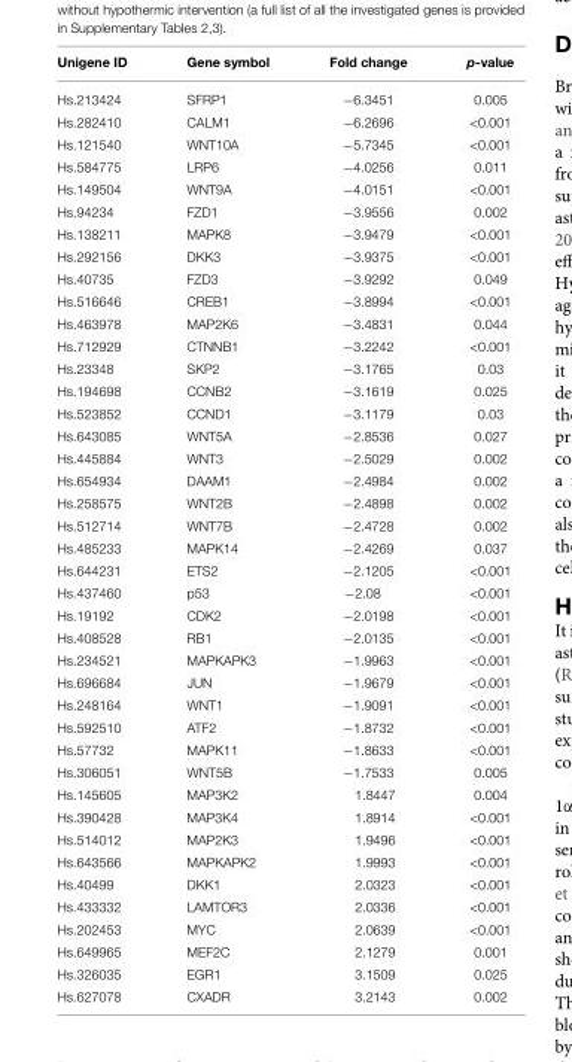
<table><thead><tr><td>Unigene ID</td><td>Gene symbol</td><td>Fold change</td><td>p-value</td></tr></thead><tbody><tr><td>Hs.213424</td><td>SFRP1</td><td>−6.3451</td><td>0.005</td></tr><tr><td>Hs.282410</td><td>CALM1</td><td>−6.2696</td><td>&lt;0.001</td></tr><tr><td>Hs.121540</td><td>WNT10A</td><td>−5.7345</td><td>&lt;0.001</td></tr><tr><td>Hs.584775</td><td>LRP6</td><td>−4.0256</td><td>0.011</td></tr><tr><td>Hs.149504</td><td>WNT9A</td><td>−4.0151</td><td>&lt;0.001</td></tr><tr><td>Hs.94234</td><td>FZD1</td><td>−3.9556</td><td>0.002</td></tr><tr><td>Hs.138211</td><td>MAPK8</td><td>−3.9479</td><td>&lt;0.001</td></tr><tr><td>Hs.292156</td><td>DKK3</td><td>−3.9375</td><td>&lt;0.001</td></tr><tr><td>Hs.40735</td><td>FZD3</td><td>−3.9292</td><td>0.049</td></tr><tr><td>Hs.516646</td><td>CREB1</td><td>−3.8994</td><td>&lt;0.001</td></tr><tr><td>Hs.463978</td><td>MAP2K6</td><td>−3.4831</td><td>0.044</td></tr><tr><td>Hs.712929</td><td>CTNNB1</td><td>−3.2242</td><td>&lt;0.001</td></tr><tr><td>Hs.23348</td><td>SKP2</td><td>−3.1765</td><td>0.03</td></tr><tr><td>Hs.194698</td><td>CCNB2</td><td>−3.1619</td><td>0.025</td></tr><tr><td>Hs.523852</td><td>CCND1</td><td>−3.1179</td><td>0.03</td></tr><tr><td>Hs.643085</td><td>WNT5A</td><td>−2.8536</td><td>0.027</td></tr><tr><td>Hs.445884</td><td>WNT3</td><td>−2.5029</td><td>0.002</td></tr><tr><td>Hs.654934</td><td>DAAM1</td><td>−2.4984</td><td>0.002</td></tr><tr><td>Hs.258575</td><td>WNT2B</td><td>−2.4898</td><td>0.002</td></tr><tr><td>Hs.512714</td><td>WNT7B</td><td>−2.4728</td><td>0.002</td></tr><tr><td>Hs.485233</td><td>MAPK14</td><td>−2.4269</td><td>0.037</td></tr><tr><td>Hs.644231</td><td>ETS2</td><td>−2.1205</td><td>&lt;0.001</td></tr><tr><td>Hs.437460</td><td>p53</td><td>−2.08</td><td>&lt;0.001</td></tr><tr><td>Hs.19192</td><td>CDK2</td><td>−2.0198</td><td>&lt;0.001</td></tr><tr><td>Hs.408528</td><td>RB1</td><td>−2.0135</td><td>&lt;0.001</td></tr><tr><td>Hs.234521</td><td>MAPKAPK3</td><td>−1.9963</td><td>&lt;0.001</td></tr><tr><td>Hs.696684</td><td>JUN</td><td>−1.9679</td><td>&lt;0.001</td></tr><tr><td>Hs.248164</td><td>WNT1</td><td>−1.9091</td><td>&lt;0.001</td></tr><tr><td>Hs.592510</td><td>ATF2</td><td>−1.8732</td><td>&lt;0.001</td></tr><tr><td>Hs.57732</td><td>MAPK11</td><td>−1.8633</td><td>&lt;0.001</td></tr><tr><td>Hs.306051</td><td>WNT5B</td><td>−1.7533</td><td>0.005</td></tr><tr><td>Hs.145605</td><td>MAP3K2</td><td>1.8447</td><td>0.004</td></tr><tr><td>Hs.390428</td><td>MAP3K4</td><td>1.8914</td><td>&lt;0.001</td></tr><tr><td>Hs.514012</td><td>MAP2K3</td><td>1.9496</td><td>&lt;0.001</td></tr><tr><td>Hs.643566</td><td>MAPKAPK2</td><td>1.9993</td><td>&lt;0.001</td></tr><tr><td>Hs.40499</td><td>DKK1</td><td>2.0323</td><td>&lt;0.001</td></tr><tr><td>Hs.433332</td><td>LAMTOR3</td><td>2.0336</td><td>&lt;0.001</td></tr><tr><td>Hs.202453</td><td>MYC</td><td>2.0639</td><td>&lt;0.001</td></tr><tr><td>Hs.649965</td><td>MEF2C</td><td>2.1279</td><td>0.001</td></tr><tr><td>Hs.326035</td><td>EGR1</td><td>3.1509</td><td>0.025</td></tr><tr><td>Hs.627078</td><td>CXADR</td><td>3.2143</td><td>0.002</td></tr></tbody></table>